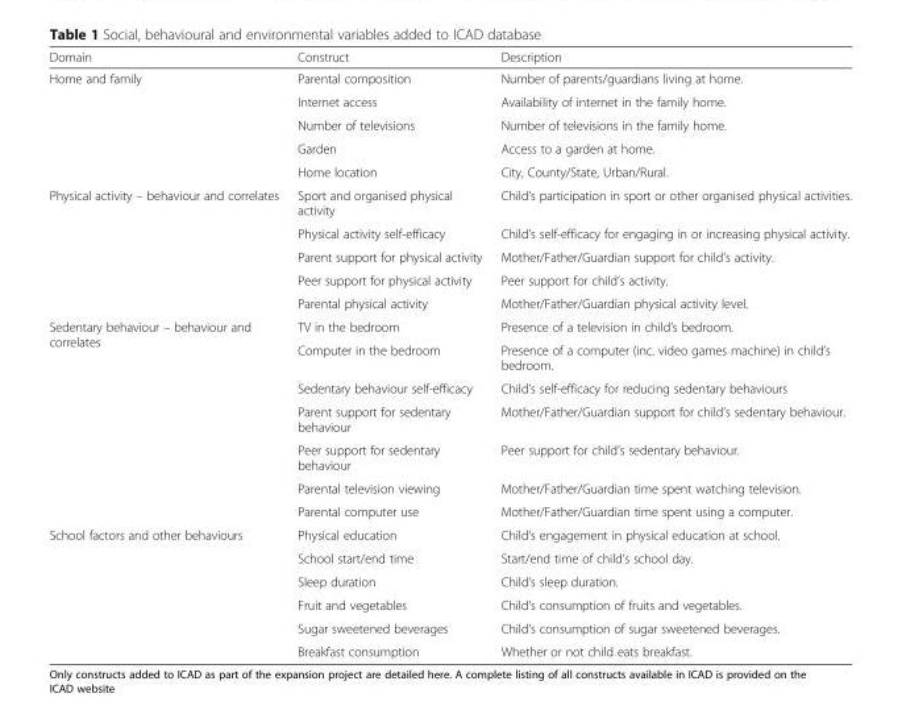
<table><thead><tr><td>Domain</td><td>Construct</td><td>Description</td></tr></thead><tbody><tr><td rowspan="5">Home and family</td><td>Parental composition</td><td>Number of parents/guardians living at home.</td></tr><tr><td>Internet access</td><td>Availability of internet in the family home.</td></tr><tr><td>Number of televisions</td><td>Number of televisions in the family home.</td></tr><tr><td>Garden</td><td>Access to a garden at home.</td></tr><tr><td>Home location</td><td>City, County/State, Urban/Rural.</td></tr><tr><td rowspan="5">Physical activity – behaviour and correlates</td><td>Sport and organised physical activity</td><td>Child’s participation in sport or other organised physical activities.</td></tr><tr><td>Physical activity self-efficacy</td><td>Child’s self-efficacy for engaging in or increasing physical activity.</td></tr><tr><td>Parent support for physical activity</td><td>Mother/Father/Guardian support for child’s activity.</td></tr><tr><td>Peer support for physical activity</td><td>Peer support for child’s activity.</td></tr><tr><td>Parental physical activity</td><td>Mother/Father/Guardian physical activity level.</td></tr><tr><td rowspan="7">Sedentary behaviour – behaviour and correlates</td><td>TV in the bedroom</td><td>Presence of a television in child’s bedroom.</td></tr><tr><td>Computer in the bedroom</td><td>Presence of a computer (inc. video games machine) in child’s bedroom.</td></tr><tr><td>Sedentary behaviour self-efficacy</td><td>Child’s self-efficacy for reducing sedentary behaviours</td></tr><tr><td>Parent support for sedentary behaviour</td><td>Mother/Father/Guardian support for child’s sedentary behaviour.</td></tr><tr><td>Peer support for sedentary behaviour</td><td>Peer support for child’s sedentary behaviour.</td></tr><tr><td>Parental television viewing</td><td>Mother/Father/Guardian time spent watching television.</td></tr><tr><td>Parental computer use</td><td>Mother/Father/Guardian time spent using a computer.</td></tr><tr><td rowspan="6">School factors and other behaviours</td><td>Physical education</td><td>Child’s engagement in physical education at school.</td></tr><tr><td>School start/end time</td><td>Start/end time of child’s school day.</td></tr><tr><td>Sleep duration</td><td>Child’s sleep duration.</td></tr><tr><td>Fruit and vegetables</td><td>Child’s consumption of fruits and vegetables.</td></tr><tr><td>Sugar sweetened beverages</td><td>Child’s consumption of sugar sweetened beverages.</td></tr><tr><td>Breakfast consumption</td><td>Whether or not child eats breakfast.</td></tr></tbody></table>